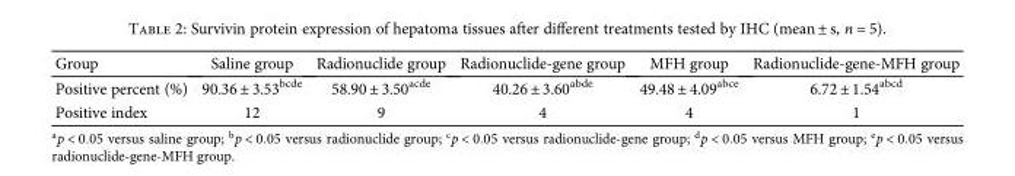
<table><thead><tr><td>Group</td><td>Saline group</td><td>Radionuclide group</td><td>Radionuclide-gene group</td><td>MFH group</td><td>Radionuclide-gene-MFH group</td></tr></thead><tbody><tr><td>Positive percent (%)</td><td>90.36 ± 3.53<sup>bcde</sup></td><td>58.90 ± 3.50<sup>acde</sup></td><td>40.26 ± 3.60<sup>abde</sup></td><td>49.48 ± 4.09<sup>abce</sup></td><td>6.72 ± 1.54<sup>abcd</sup></td></tr><tr><td>Positive index</td><td>12</td><td>9</td><td>4</td><td>4</td><td>1</td></tr></tbody></table>